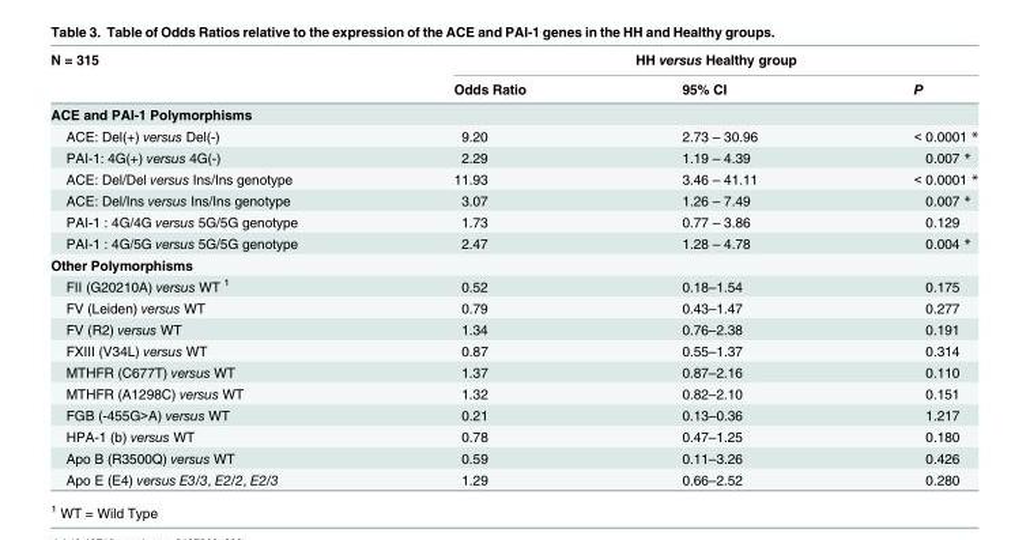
<table><thead><tr><td rowspan="2">N = 315</td><td colspan="3">HH versus Healthy group</td></tr><tr><td>Odds Ratio</td><td>95% CI</td><td>P</td></tr></thead><tbody><tr><td colspan="4">ACE and PAI-1 Polymorphisms</td></tr><tr><td>ACE: Del(+) versus Del(-)</td><td>9.20</td><td>2.73 – 30.96</td><td>&lt; 0.0001 *</td></tr><tr><td>PAI-1: 4G(+) versus 4G(-)</td><td>2.29</td><td>1.19 – 4.39</td><td>0.007 *</td></tr><tr><td>ACE: Del/Del versus Ins/Ins genotype</td><td>11.93</td><td>3.46 – 41.11</td><td>&lt; 0.0001 *</td></tr><tr><td>ACE: Del/Ins versus Ins/Ins genotype</td><td>3.07</td><td>1.26 – 7.49</td><td>0.007 *</td></tr><tr><td>PAI-1 : 4G/4G versus 5G/5G genotype</td><td>1.73</td><td>0.77 – 3.86</td><td>0.129</td></tr><tr><td>PAI-1 : 4G/5G versus 5G/5G genotype</td><td>2.47</td><td>1.28 – 4.78</td><td>0.004 *</td></tr><tr><td colspan="4">Other Polymorphisms</td></tr><tr><td>FII (G20210A) versus WT <sup>1</sup></td><td>0.52</td><td>0.18–1.54</td><td>0.175</td></tr><tr><td>FV (Leiden) versus WT</td><td>0.79</td><td>0.43–1.47</td><td>0.277</td></tr><tr><td>FV (R2) versus WT</td><td>1.34</td><td>0.76–2.38</td><td>0.191</td></tr><tr><td>FXIII (V34L) versus WT</td><td>0.87</td><td>0.55–1.37</td><td>0.314</td></tr><tr><td>MTHFR (C677T) versus WT</td><td>1.37</td><td>0.87–2.16</td><td>0.110</td></tr><tr><td>MTHFR (A1298C) versus WT</td><td>1.32</td><td>0.82–2.10</td><td>0.151</td></tr><tr><td>FGB (-455G&gt;A) versus WT</td><td>0.21</td><td>0.13–0.36</td><td>1.217</td></tr><tr><td>HPA-1 (b) versus WT</td><td>0.78</td><td>0.47–1.25</td><td>0.180</td></tr><tr><td>Apo B (R3500Q) versus WT</td><td>0.59</td><td>0.11–3.26</td><td>0.426</td></tr><tr><td>Apo E (E4) versus E3/3, E2/2, E2/3</td><td>1.29</td><td>0.66–2.52</td><td>0.280</td></tr></tbody></table>